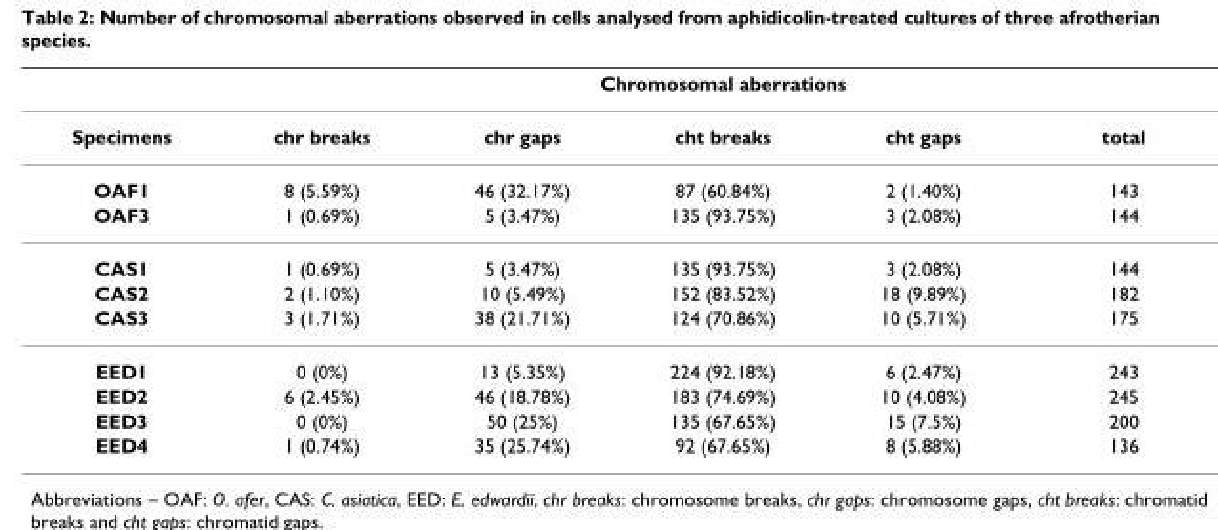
<table><thead><tr><td rowspan="2">Specimens</td><td colspan="5">Chromosomal aberrations</td></tr><tr><td>chr breaks</td><td>chr gaps</td><td>cht breaks</td><td>cht gaps</td><td>total</td></tr></thead><tbody><tr><td>OAF1</td><td>8 (5.59%)</td><td>46 (32.17%)</td><td>87 (60.84%)</td><td>2 (1.40%)</td><td>143</td></tr><tr><td>OAF3</td><td>1 (0.69%)</td><td>5 (3.47%)</td><td>135 (93.75%)</td><td>3 (2.08%)</td><td>144</td></tr><tr><td>CAS1</td><td>1 (0.69%)</td><td>5 (3.47%)</td><td>135 (93.75%)</td><td>3 (2.08%)</td><td>144</td></tr><tr><td>CAS2</td><td>2 (1.10%)</td><td>10 (5.49%)</td><td>152 (83.52%)</td><td>18 (9.89%)</td><td>182</td></tr><tr><td>CAS3</td><td>3 (1.71%)</td><td>38 (21.71%)</td><td>124 (70.86%)</td><td>10 (5.71%)</td><td>175</td></tr><tr><td>EED1</td><td>0 (0%)</td><td>13 (5.35%)</td><td>224 (92.18%)</td><td>6 (2.47%)</td><td>243</td></tr><tr><td>EED2</td><td>6 (2.45%)</td><td>46 (18.78%)</td><td>183 (74.69%)</td><td>10 (4.08%)</td><td>245</td></tr><tr><td>EED3</td><td>0 (0%)</td><td>50 (25%)</td><td>135 (67.65%)</td><td>15 (7.5%)</td><td>200</td></tr><tr><td>EED4</td><td>1 (0.74%)</td><td>35 (25.74%)</td><td>92 (67.65%)</td><td>8 (5.88%)</td><td>136</td></tr></tbody></table>